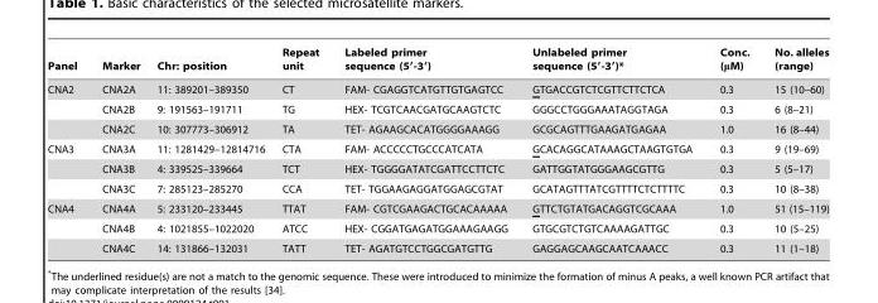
<table><thead><tr><td>Panel</td><td>Marker</td><td>Chr: position</td><td>Repeat unit</td><td>Labeled primer sequence (5′-3′)</td><td>Unlabeled primer sequence (5′-3′)*</td><td>Conc. (μM)</td><td>No. alleles (range)</td></tr></thead><tbody><tr><td rowspan="3">CNA2</td><td>CNA2A</td><td>11: 389201–389350</td><td>CT</td><td>FAM- CGAGGTCATGTTGTGAGTCC</td><td>GTGACCGTCTCGTTCTTCTCA</td><td>0.3</td><td>15 (10–60)</td></tr><tr><td>CNA2B</td><td>9: 191563–191711</td><td>TG</td><td>HEX- TCGTCAACGATGCAAGTCTC</td><td>GGGCCTGGGAAATAGGTAGA</td><td>0.3</td><td>6 (8–21)</td></tr><tr><td>CNA2C</td><td>10: 307773–306912</td><td>TA</td><td>TET- AGAAGCACATGGGGAAAGG</td><td>GCGCAGTTTGAAGATGAGAA</td><td>1.0</td><td>16 (8–44)</td></tr><tr><td rowspan="3">CNA3</td><td>CNA3A</td><td>11: 1281429–12814716</td><td>CTA</td><td>FAM- ACCCCCTGCCCATCATA</td><td>GCACAGGCATAAAGCTAAGTGTGA</td><td>0.3</td><td>9 (19–69)</td></tr><tr><td>CNA3B</td><td>4: 339525–339664</td><td>TCT</td><td>HEX- TGGGGATATCGATTCCTTCTC</td><td>GATTGGTATGGGAAGCGTTG</td><td>0.3</td><td>5 (5–17)</td></tr><tr><td>CNA3C</td><td>7: 285123–285270</td><td>CCA</td><td>TET- TGGAAGAGGATGGAGCGTAT</td><td>GCATAGTTTATCGTTTTCTCTTTTC</td><td>0.3</td><td>10 (8–38)</td></tr><tr><td rowspan="3">CNA4</td><td>CNA4A</td><td>5: 233120–233445</td><td>TTAT</td><td>FAM- CGTCGAAGACTGCACAAAAA</td><td>GTTCTGTATGACAGGTCGCAAA</td><td>1.0</td><td>51 (15–119)</td></tr><tr><td>CNA4B</td><td>4: 1021855–1022020</td><td>ATCC</td><td>HEX- CGGATGAGATGGAAAGAAGG</td><td>GTGCGTCTGTCAAAAGATTGC</td><td>0.3</td><td>10 (5–25)</td></tr><tr><td>CNA4C</td><td>14: 131866–132031</td><td>TATT</td><td>TET- AGATGTCCTGGCGATGTTG</td><td>GAGGAGCAAGCAATCAAACC</td><td>0.3</td><td>11 (1–18)</td></tr></tbody></table>